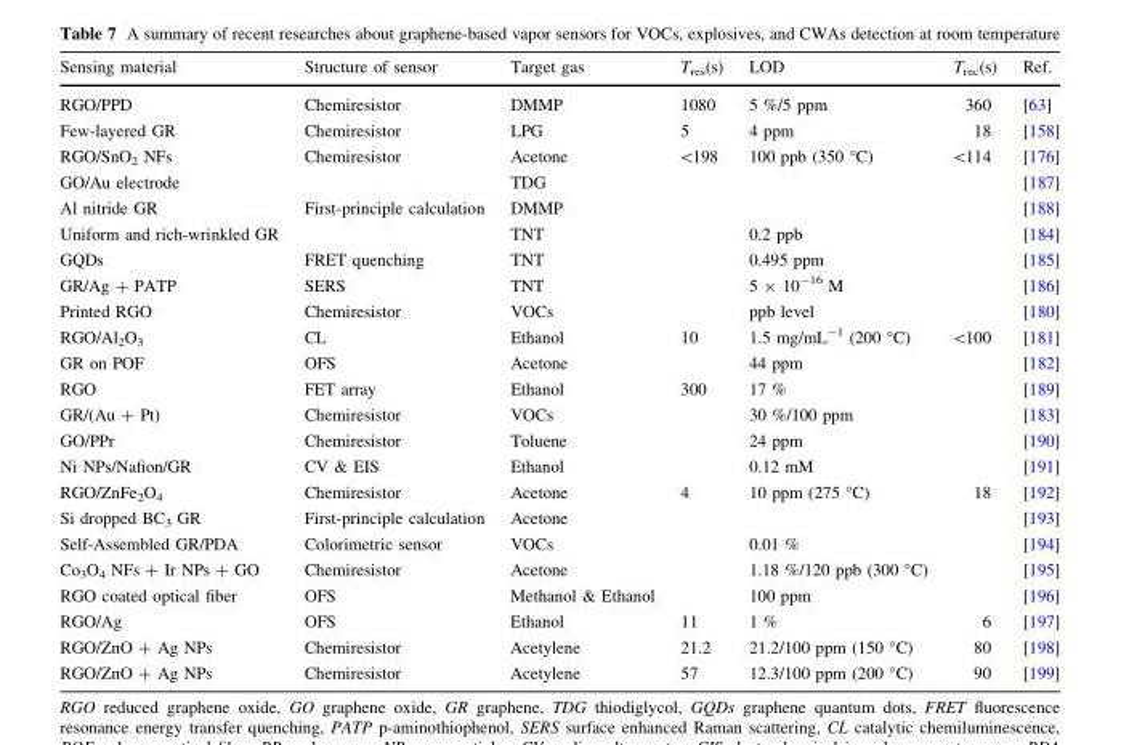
<table><thead><tr><td>Sensing material</td><td>Structure of sensor</td><td>Target gas</td><td>T<sub>res</sub>(s)</td><td>LOD</td><td>T<sub>rec</sub>(s)</td><td>Ref.</td></tr></thead><tbody><tr><td>RGO/PPD</td><td>Chemiresistor</td><td>DMMP</td><td>1080</td><td>5 %/5 ppm</td><td>360</td><td>[63]</td></tr><tr><td>Few-layered GR</td><td>Chemiresistor</td><td>LPG</td><td>5</td><td>4 ppm</td><td>18</td><td>[158]</td></tr><tr><td>RGO/SnO<sub>2</sub> NFs</td><td>Chemiresistor</td><td>Acetone</td><td>&lt;198</td><td>100 ppb (350 °C)</td><td>&lt;114</td><td>[176]</td></tr><tr><td>GO/Au electrode</td><td></td><td>TDG</td><td></td><td></td><td></td><td>[187]</td></tr><tr><td>Al nitride GR</td><td>First-principle calculation</td><td>DMMP</td><td></td><td></td><td></td><td>[188]</td></tr><tr><td>Uniform and rich-wrinkled GR</td><td></td><td>TNT</td><td></td><td>0.2 ppb</td><td></td><td>[184]</td></tr><tr><td>GQDs</td><td>FRET quenching</td><td>TNT</td><td></td><td>0.495 ppm</td><td></td><td>[185]</td></tr><tr><td>GR/Ag + PATP</td><td>SERS</td><td>TNT</td><td></td><td>5 × 10<sup>-16</sup> M</td><td></td><td>[186]</td></tr><tr><td>Printed RGO</td><td>Chemiresistor</td><td>VOCs</td><td></td><td>ppb level</td><td></td><td>[180]</td></tr><tr><td>RGO/Al<sub>2</sub>O<sub>3</sub></td><td>CL</td><td>Ethanol</td><td>10</td><td>1.5 mg/mL<sup>-1</sup> (200 °C)</td><td>&lt;100</td><td>[181]</td></tr><tr><td>GR on POF</td><td>OFS</td><td>Acetone</td><td></td><td>44 ppm</td><td></td><td>[182]</td></tr><tr><td>RGO</td><td>FET array</td><td>Ethanol</td><td>300</td><td>17 %</td><td></td><td>[189]</td></tr><tr><td>GR/(Au + Pt)</td><td>Chemiresistor</td><td>VOCs</td><td></td><td>30 %/100 ppm</td><td></td><td>[183]</td></tr><tr><td>GO/PPr</td><td>Chemiresistor</td><td>Toluene</td><td></td><td>24 ppm</td><td></td><td>[190]</td></tr><tr><td>Ni NPs/Nafion/GR</td><td>CV &amp; EIS</td><td>Ethanol</td><td></td><td>0.12 mM</td><td></td><td>[191]</td></tr><tr><td>RGO/ZnFe<sub>2</sub>O<sub>4</sub></td><td>Chemiresistor</td><td>Acetone</td><td>4</td><td>10 ppm (275 °C)</td><td>18</td><td>[192]</td></tr><tr><td>Si dropped BC<sub>3</sub> GR</td><td>First-principle calculation</td><td>Acetone</td><td></td><td></td><td></td><td>[193]</td></tr><tr><td>Self-Assembled GR/PDA</td><td>Colorimetric sensor</td><td>VOCs</td><td></td><td>0.01 %</td><td></td><td>[194]</td></tr><tr><td>Co<sub>3</sub>O<sub>4</sub> NFs + Ir NPs + GO</td><td>Chemiresistor</td><td>Acetone</td><td></td><td>1.18 %/120 ppb (300 °C)</td><td></td><td>[195]</td></tr><tr><td>RGO coated optical fiber</td><td>OFS</td><td>Methanol &amp; Ethanol</td><td></td><td>100 ppm</td><td></td><td>[196]</td></tr><tr><td>RGO/Ag</td><td>OFS</td><td>Ethanol</td><td>11</td><td>1 %</td><td>6</td><td>[197]</td></tr><tr><td>RGO/ZnO + Ag NPs</td><td>Chemiresistor</td><td>Acetylene</td><td>21.2</td><td>21.2/100 ppm (150 °C)</td><td>80</td><td>[198]</td></tr><tr><td>RGO/ZnO + Ag NPs</td><td>Chemiresistor</td><td>Acetylene</td><td>57</td><td>12.3/100 ppm (200 °C)</td><td>90</td><td>[199]</td></tr></tbody></table>